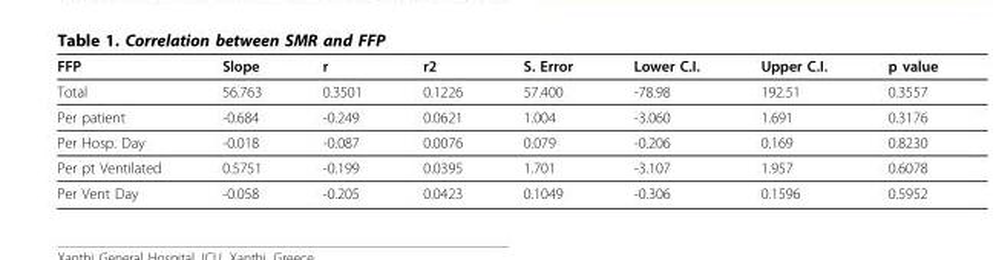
<table><thead><tr><td>FFP</td><td>Slope</td><td>r</td><td>r2</td><td>S. Error</td><td>Lower C.I.</td><td>Upper C.I.</td><td>p value</td></tr></thead><tbody><tr><td>Total</td><td>56.763</td><td>0.3501</td><td>0.1226</td><td>57.400</td><td>-78.98</td><td>192.51</td><td>0.3557</td></tr><tr><td>Per patient</td><td>-0.684</td><td>-0.249</td><td>0.0621</td><td>1.004</td><td>-3.060</td><td>1.691</td><td>0.3176</td></tr><tr><td>Per Hosp. Day</td><td>-0.018</td><td>-0.087</td><td>0.0076</td><td>0.079</td><td>-0.206</td><td>0.169</td><td>0.8230</td></tr><tr><td>Per pt Ventilated</td><td>0.5751</td><td>-0.199</td><td>0.0395</td><td>1.701</td><td>-3.107</td><td>1.957</td><td>0.6078</td></tr><tr><td>Per Vent Day</td><td>-0.058</td><td>-0.205</td><td>0.0423</td><td>0.1049</td><td>-0.306</td><td>0.1596</td><td>0.5952</td></tr></tbody></table>